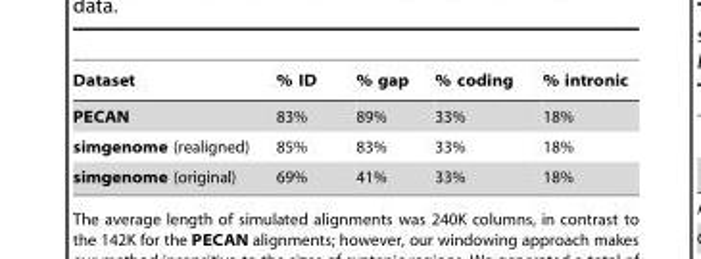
<table><thead><tr><td>Dataset</td><td>% ID</td><td>% gap</td><td>% coding</td><td>% intronic</td></tr></thead><tbody><tr><td>PECAN</td><td>83%</td><td>89%</td><td>33%</td><td>18%</td></tr><tr><td>simgenome (realigned)</td><td>85%</td><td>83%</td><td>33%</td><td>18%</td></tr><tr><td>simgenome (original)</td><td>69%</td><td>41%</td><td>33%</td><td>18%</td></tr></tbody></table>